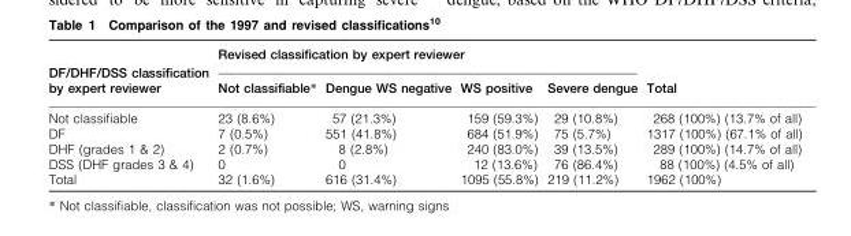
<table><thead><tr><td rowspan="2">DF/DHF/DSS classification by expert reviewer</td><td colspan="4">Revised classification by expert reviewer</td><td rowspan="2">Total</td></tr><tr><td>Not classifiable*</td><td>Dengue WS negative</td><td>WS positive</td><td>Severe dengue</td></tr></thead><tbody><tr><td>Not classifiable</td><td>23 (8.6%)</td><td>57 (21.3%)</td><td>159 (59.3%)</td><td>29 (10.8%)</td><td>268 (100%) (13.7% of all)</td></tr><tr><td>DF</td><td>7 (0.5%)</td><td>551 (41.8%)</td><td>684 (51.9%)</td><td>75 (5.7%)</td><td>1317 (100%) (67.1% of all)</td></tr><tr><td>DHF (grades 1 &amp; 2)</td><td>2 (0.7%)</td><td>8 (2.8%)</td><td>240 (83.0%)</td><td>39 (13.5%)</td><td>289 (100%) (14.7% of all)</td></tr><tr><td>DSS (DHF grades 3 &amp; 4)</td><td>0</td><td>0</td><td>12 (13.6%)</td><td>76 (86.4%)</td><td>88 (100%) (4.5% of all)</td></tr><tr><td>Total</td><td>32 (1.6%)</td><td>616 (31.4%)</td><td>1095 (55.8%)</td><td>219 (11.2%)</td><td>1962 (100%)</td></tr></tbody></table>